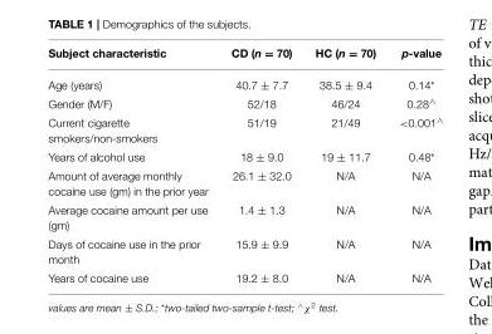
<table><thead><tr><td>Subject characteristic</td><td>CD (n = 70)</td><td>HC (n = 70)</td><td>p-value</td></tr></thead><tbody><tr><td>Age (years)</td><td>40.7 ± 7.7</td><td>38.5 ± 9.4</td><td>0.14*</td></tr><tr><td>Gender (M/F)</td><td>52/18</td><td>46/24</td><td>0.28<sup>∧</sup></td></tr><tr><td>Current cigarette smokers/non-smokers</td><td>51/19</td><td>21/49</td><td>&lt;0.001<sup>∧</sup></td></tr><tr><td>Years of alcohol use</td><td>18 ± 9.0</td><td>19 ± 11.7</td><td>0.48*</td></tr><tr><td>Amount of average monthly cocaine use (gm) in the prior year</td><td>26.1 ± 32.0</td><td>N/A</td><td>N/A</td></tr><tr><td>Average cocaine amount per use (gm)</td><td>1.4 ± 1.3</td><td>N/A</td><td>N/A</td></tr><tr><td>Days of cocaine use in the prior month</td><td>15.9 ± 9.9</td><td>N/A</td><td>N/A</td></tr><tr><td>Years of cocaine use</td><td>19.2 ± 8.0</td><td>N/A</td><td>N/A</td></tr></tbody></table>